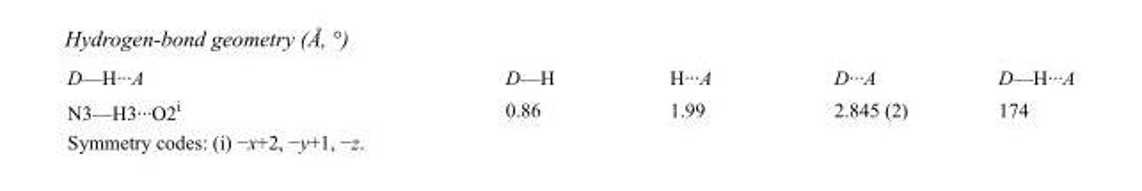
<table><tbody><tr><td>D—H···A</td><td>D—H</td><td>H···A</td><td>D···A</td><td>D—H···A</td></tr><tr><td>N3—H3···O2<sup>i</sup></td><td>0.86</td><td>1.99</td><td>2.845 (2)</td><td>174</td></tr></tbody></table>